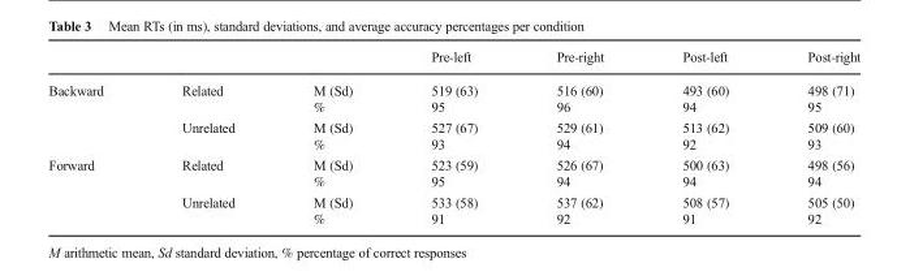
<table><thead><tr><td></td><td></td><td></td><td>Pre-left</td><td>Pre-right</td><td>Post-left</td><td>Post-right</td></tr></thead><tbody><tr><td rowspan="2">Backward</td><td>Related</td><td>M (Sd) %</td><td>519 (63) 95</td><td>516 (60) 96</td><td>493 (60) 94</td><td>498 (71) 95</td></tr><tr><td>Unrelated</td><td>M (Sd) %</td><td>527 (67) 93</td><td>529 (61) 94</td><td>513 (62) 92</td><td>509 (60) 93</td></tr><tr><td rowspan="2">Forward</td><td>Related</td><td>M (Sd) %</td><td>523 (59) 95</td><td>526 (67) 94</td><td>500 (63) 94</td><td>498 (56) 94</td></tr><tr><td>Unrelated</td><td>M (Sd) %</td><td>533 (58) 91</td><td>537 (62) 92</td><td>508 (57) 91</td><td>505 (50) 92</td></tr></tbody></table>